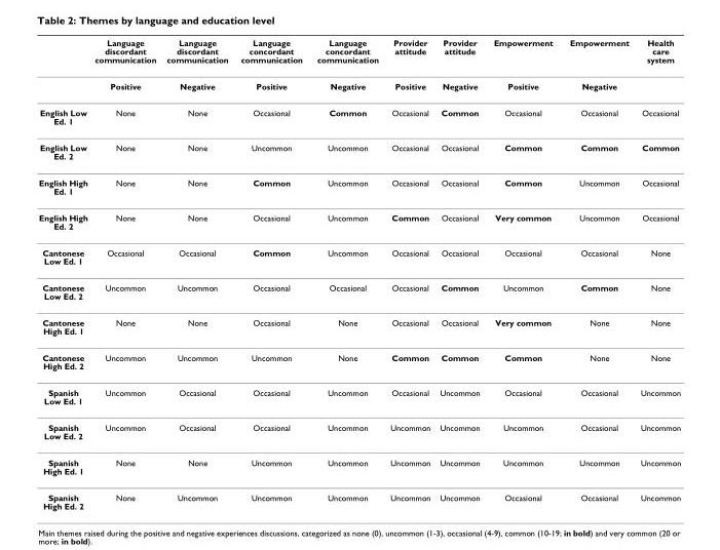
<table><thead><tr><td></td><td>Language discordant communication</td><td>Language discordant communication</td><td>Language concordant communication</td><td>Language concordant communication</td><td>Provider attitude</td><td>Provider attitude</td><td>Empowerment</td><td>Empowerment</td><td>Health care system</td></tr></thead><tbody><tr><td></td><td>Positive</td><td>Negative</td><td>Positive</td><td>Negative</td><td>Positive</td><td>Negative</td><td>Positive</td><td>Negative</td><td></td></tr><tr><td>English Low Ed. 1</td><td>None</td><td>None</td><td>Occasional</td><td>Common</td><td>Occasional</td><td>Common</td><td>Occasional</td><td>Occasional</td><td>Occasional</td></tr><tr><td>English Low Ed. 2</td><td>None</td><td>None</td><td>Uncommon</td><td>Uncommon</td><td>Occasional</td><td>Occasional</td><td>Common</td><td>Common</td><td>Common</td></tr><tr><td>English High Ed. 1</td><td>None</td><td>None</td><td>Common</td><td>Uncommon</td><td>Occasional</td><td>Occasional</td><td>Common</td><td>Uncommon</td><td>Occasional</td></tr><tr><td>English High Ed. 2</td><td>None</td><td>None</td><td>Occasional</td><td>Uncommon</td><td>Common</td><td>Occasional</td><td>Very common</td><td>Uncommon</td><td>Occasional</td></tr><tr><td>Cantonese Low Ed. 1</td><td>Occasional</td><td>Occasional</td><td>Common</td><td>Uncommon</td><td>Occasional</td><td>Occasional</td><td>Occasional</td><td>Occasional</td><td>None</td></tr><tr><td>Cantonese Low Ed. 2</td><td>Uncommon</td><td>Uncommon</td><td>Occasional</td><td>Occasional</td><td>Occasional</td><td>Common</td><td>Uncommon</td><td>Common</td><td>None</td></tr><tr><td>Cantonese High Ed. 1</td><td>None</td><td>None</td><td>Occasional</td><td>None</td><td>Occasional</td><td>Occasional</td><td>Very common</td><td>None</td><td>None</td></tr><tr><td>Cantonese High Ed. 2</td><td>Uncommon</td><td>Uncommon</td><td>Uncommon</td><td>None</td><td>Common</td><td>Common</td><td>Common</td><td>None</td><td>None</td></tr><tr><td>Spanish Low Ed. 1</td><td>Uncommon</td><td>Occasional</td><td>Occasional</td><td>Uncommon</td><td>Occasional</td><td>Uncommon</td><td>Occasional</td><td>Occasional</td><td>Uncommon</td></tr><tr><td>Spanish Low Ed. 2</td><td>Uncommon</td><td>Occasional</td><td>Occasional</td><td>Uncommon</td><td>Uncommon</td><td>Uncommon</td><td>Uncommon</td><td>Occasional</td><td>Uncommon</td></tr><tr><td>Spanish High Ed. 1</td><td>None</td><td>None</td><td>Uncommon</td><td>Uncommon</td><td>Uncommon</td><td>Uncommon</td><td>Uncommon</td><td>Uncommon</td><td>Uncommon</td></tr><tr><td>Spanish High Ed. 2</td><td>None</td><td>Uncommon</td><td>Uncommon</td><td>Uncommon</td><td>Uncommon</td><td>Uncommon</td><td>Occasional</td><td>Occasional</td><td>Uncommon</td></tr></tbody></table>